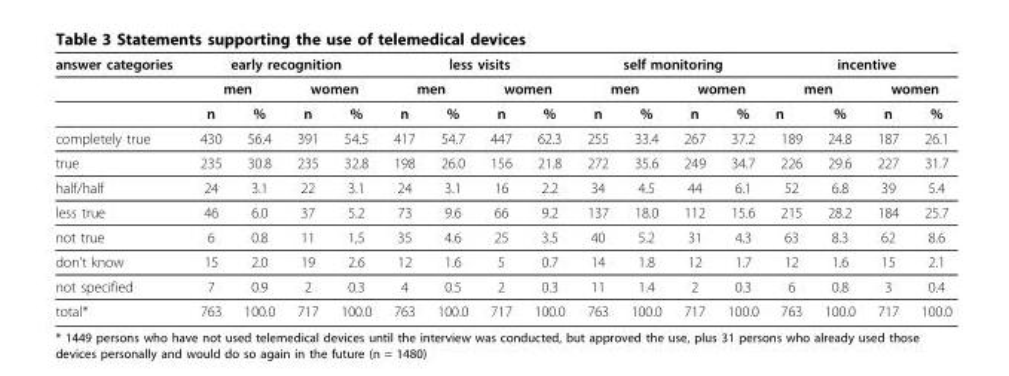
<table><thead><tr><td rowspan="3">answer categories</td><td colspan="4">early recognition</td><td colspan="4">less visits</td><td colspan="4">self monitoring</td><td colspan="4">incentive</td></tr><tr><td colspan="2">men</td><td colspan="2">women</td><td colspan="2">men</td><td colspan="2">women</td><td colspan="2">men</td><td colspan="2">women</td><td colspan="2">men</td><td colspan="2">women</td></tr><tr><td>n</td><td>%</td><td>n</td><td>%</td><td>n</td><td>%</td><td>n</td><td>%</td><td>n</td><td>%</td><td>n</td><td>%</td><td>n</td><td>%</td><td>n</td><td>%</td></tr></thead><tbody><tr><td>completely true</td><td>430</td><td>56.4</td><td>391</td><td>54.5</td><td>417</td><td>54.7</td><td>447</td><td>62.3</td><td>255</td><td>33.4</td><td>267</td><td>37.2</td><td>189</td><td>24.8</td><td>187</td><td>26.1</td></tr><tr><td>true</td><td>235</td><td>30.8</td><td>235</td><td>32.8</td><td>198</td><td>26.0</td><td>156</td><td>21.8</td><td>272</td><td>35.6</td><td>249</td><td>34.7</td><td>226</td><td>29.6</td><td>227</td><td>31.7</td></tr><tr><td>half/half</td><td>24</td><td>3.1</td><td>22</td><td>3.1</td><td>24</td><td>3.1</td><td>16</td><td>2.2</td><td>34</td><td>4.5</td><td>44</td><td>6.1</td><td>52</td><td>6.8</td><td>39</td><td>5.4</td></tr><tr><td>less true</td><td>46</td><td>6.0</td><td>37</td><td>5.2</td><td>73</td><td>9.6</td><td>66</td><td>9.2</td><td>137</td><td>18.0</td><td>112</td><td>15.6</td><td>215</td><td>28.2</td><td>184</td><td>25.7</td></tr><tr><td>not true</td><td>6</td><td>0.8</td><td>11</td><td>1,5</td><td>35</td><td>4.6</td><td>25</td><td>3.5</td><td>40</td><td>5.2</td><td>31</td><td>4.3</td><td>63</td><td>8.3</td><td>62</td><td>8.6</td></tr><tr><td>don’t know</td><td>15</td><td>2.0</td><td>19</td><td>2.6</td><td>12</td><td>1.6</td><td>5</td><td>0.7</td><td>14</td><td>1.8</td><td>12</td><td>1.7</td><td>12</td><td>1.6</td><td>15</td><td>2.1</td></tr><tr><td>not specified</td><td>7</td><td>0.9</td><td>2</td><td>0.3</td><td>4</td><td>0.5</td><td>2</td><td>0.3</td><td>11</td><td>1.4</td><td>2</td><td>0.3</td><td>6</td><td>0.8</td><td>3</td><td>0.4</td></tr><tr><td>total*</td><td>763</td><td>100.0</td><td>717</td><td>100.0</td><td>763</td><td>100.0</td><td>717</td><td>100.0</td><td>763</td><td>100.0</td><td>717</td><td>100.0</td><td>763</td><td>100.0</td><td>717</td><td>100.0</td></tr></tbody></table>